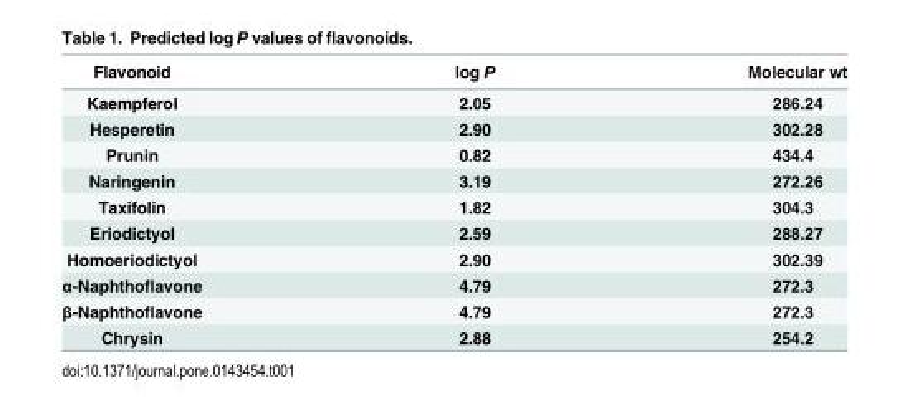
<table><thead><tr><td>Flavonoid</td><td>log P</td><td>Molecular wt</td></tr></thead><tbody><tr><td>Kaempferol</td><td>2.05</td><td>286.24</td></tr><tr><td>Hesperetin</td><td>2.90</td><td>302.28</td></tr><tr><td>Prunin</td><td>0.82</td><td>434.4</td></tr><tr><td>Naringenin</td><td>3.19</td><td>272.26</td></tr><tr><td>Taxifolin</td><td>1.82</td><td>304.3</td></tr><tr><td>Eriodictyol</td><td>2.59</td><td>288.27</td></tr><tr><td>Homoeriodictyol</td><td>2.90</td><td>302.39</td></tr><tr><td>α-Naphthoflavone</td><td>4.79</td><td>272.3</td></tr><tr><td>β-Naphthoflavone</td><td>4.79</td><td>272.3</td></tr><tr><td>Chrysin</td><td>2.88</td><td>254.2</td></tr></tbody></table>